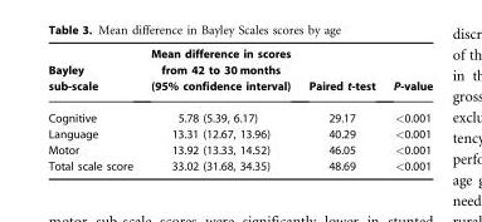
<table><thead><tr><td>Bayley sub-scale</td><td>Mean difference in scores from 42 to 30 months (95% confidence interval)</td><td>Paired t-test</td><td>P-value</td></tr></thead><tbody><tr><td>Cognitive</td><td>5.78 (5.39, 6.17)</td><td>29.17</td><td>&lt;0.001</td></tr><tr><td>Language</td><td>13.31 (12.67, 13.96)</td><td>40.29</td><td>&lt;0.001</td></tr><tr><td>Motor</td><td>13.92 (13.33, 14.52)</td><td>46.05</td><td>&lt;0.001</td></tr><tr><td>Total scale score</td><td>33.02 (31.68, 34.35)</td><td>48.69</td><td>&lt;0.001</td></tr></tbody></table>